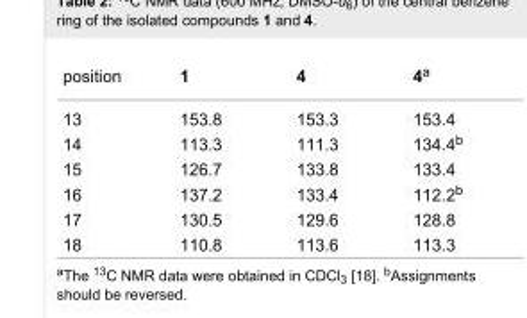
<table><tbody><tr><td>position</td><td>1</td><td>4</td><td>4<sup>a</sup></td></tr><tr><td>13</td><td>153.8</td><td>153.3</td><td>153.4</td></tr><tr><td>14</td><td>113.3</td><td>111.3</td><td>134.4<sup>b</sup></td></tr><tr><td>15</td><td>126.7</td><td>133.8</td><td>133.4</td></tr><tr><td>16</td><td>137.2</td><td>133.4</td><td>112.2<sup>b</sup></td></tr><tr><td>17</td><td>130.5</td><td>129.6</td><td>128.8</td></tr><tr><td>18</td><td>110.8</td><td>113.6</td><td>113.3</td></tr></tbody></table>